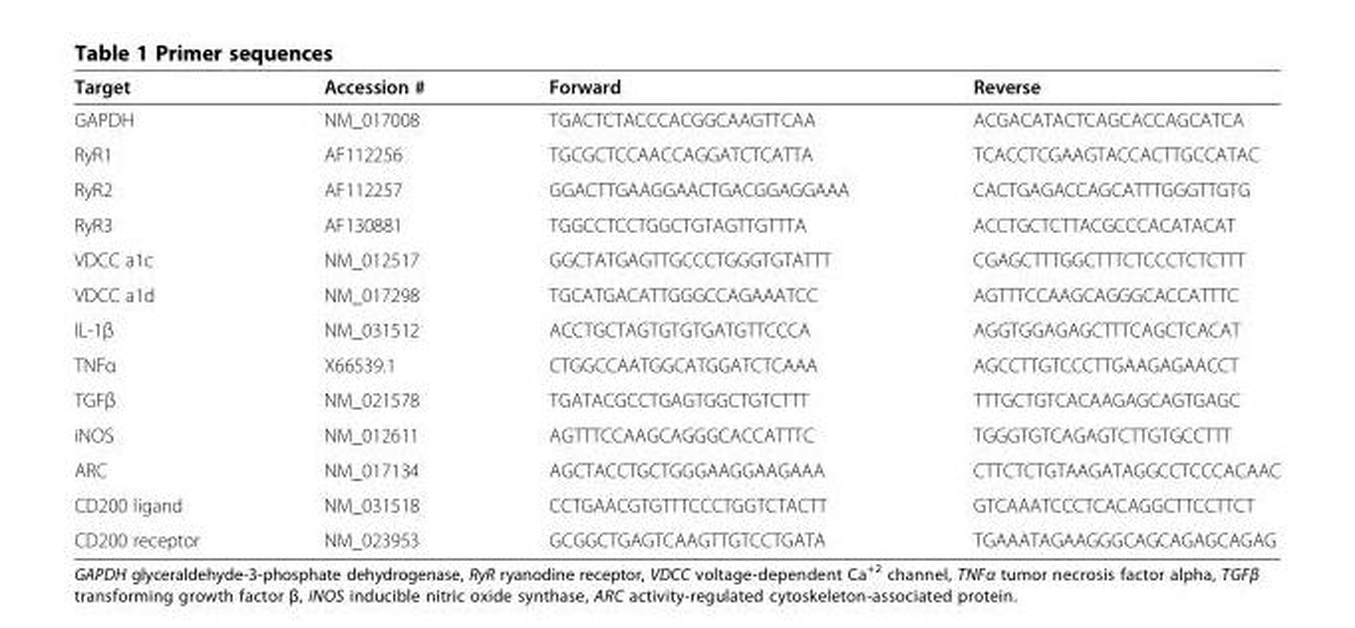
<table><thead><tr><td>Target</td><td>Accession #</td><td>Forward</td><td>Reverse</td></tr></thead><tbody><tr><td>GAPDH</td><td>NM_017008</td><td>TGACTCTACCCACGGCAAGTTCAA</td><td>ACGACATACTCAGCACCAGCATCA</td></tr><tr><td>RyR1</td><td>AF112256</td><td>TGCGCTCCAACCAGGATCTCATTA</td><td>TCACCTCGAAGTACCACTTGCCATAC</td></tr><tr><td>RyR2</td><td>AF112257</td><td>GGACTTGAAGGAACTGACGGAGGAAA</td><td>CACTGAGACCAGCATTTGGGTTGTG</td></tr><tr><td>RyR3</td><td>AF130881</td><td>TGGCCTCCTGGCTGTAGTTGTTTA</td><td>ACCTGCTCTTACGCCCACATACAT</td></tr><tr><td>VDCC a1c</td><td>NM_012517</td><td>GGCTATGAGTTGCCCTGGGTGTATTT</td><td>CGAGCTTTGGCTTTCTCCCTCTCTTT</td></tr><tr><td>VDCC a1d</td><td>NM_017298</td><td>TGCATGACATTGGGCCAGAAATCC</td><td>AGTTTCCAAGCAGGGCACCATTTC</td></tr><tr><td>IL-1β</td><td>NM_031512</td><td>ACCTGCTAGTGTGTGATGTTCCCA</td><td>AGGTGGAGAGCTTTCAGCTCACAT</td></tr><tr><td>TNFα</td><td>X66539.1</td><td>CTGGCCAATGGCATGGATCTCAAA</td><td>AGCCTTGTCCCTTGAAGAGAACCT</td></tr><tr><td>TGFβ</td><td>NM_021578</td><td>TGATACGCCTGAGTGGCTGTCTTT</td><td>TTTGCTGTCACAAGAGCAGTGAGC</td></tr><tr><td>iNOS</td><td>NM_012611</td><td>AGTTTCCAAGCAGGGCACCATTTC</td><td>TGGGTGTCAGAGTCTTGTGCCTTT</td></tr><tr><td>ARC</td><td>NM_017134</td><td>AGCTACCTGCTGGGAAGGAAGAAA</td><td>CTTCTCTGTAAGATAGGCCTCCCACAAC</td></tr><tr><td>CD200 ligand</td><td>NM_031518</td><td>CCTGAACGTGTTTCCCTGGTCTACTT</td><td>GTCAAATCCCTCACAGGCTTCCTTCT</td></tr><tr><td>CD200 receptor</td><td>NM_023953</td><td>GCGGCTGAGTCAAGTTGTCCTGATA</td><td>TGAAATAGAAGGGCAGCAGAGCAGAG</td></tr></tbody></table>